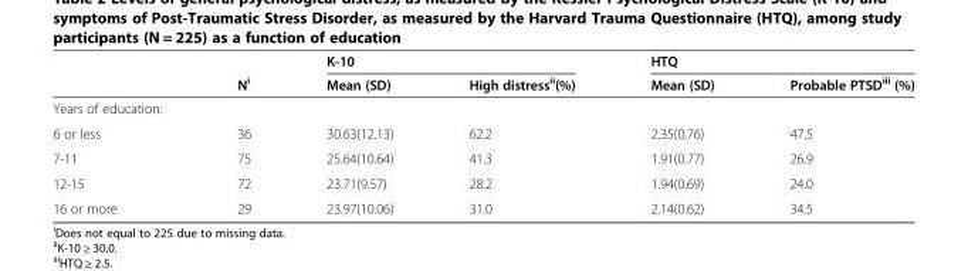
<table><thead><tr><td rowspan="2"></td><td rowspan="2">N<sup>i</sup></td><td colspan="2">K-10</td><td colspan="2">HTQ</td></tr><tr><td>Mean (SD)</td><td>High distress<sup>ii</sup>(%)</td><td>Mean (SD)</td><td>Probable PTSD<sup>iii</sup> (%)</td></tr></thead><tbody><tr><td colspan="6">Years of education:</td></tr><tr><td>6 or less</td><td>36</td><td>30.63(12.13)</td><td>62.2</td><td>2.35(0.76)</td><td>47.5</td></tr><tr><td>7-11</td><td>75</td><td>25.64(10.64)</td><td>41.3</td><td>1.91(0.77)</td><td>26.9</td></tr><tr><td>12-15</td><td>72</td><td>23.71(9.57)</td><td>28.2</td><td>1.94(0.69)</td><td>24.0</td></tr><tr><td>16 or more</td><td>29</td><td>23.97(10.06)</td><td>31.0</td><td>2.14(0.62)</td><td>34.5</td></tr></tbody></table>